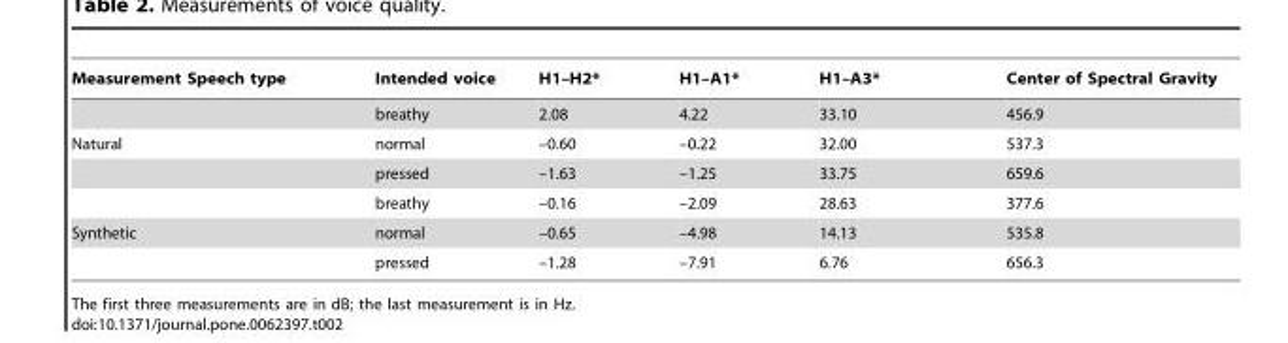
<table><thead><tr><td>Measurement Speech type</td><td>Intended voice</td><td>H1–H2*</td><td>H1–A1*</td><td>H1–A3*</td><td>Center of Spectral Gravity</td></tr></thead><tbody><tr><td></td><td>breathy</td><td>2.08</td><td>4.22</td><td>33.10</td><td>456.9</td></tr><tr><td rowspan="3">Natural</td><td>normal</td><td>–0.60</td><td>–0.22</td><td>32.00</td><td>537.3</td></tr><tr><td>pressed</td><td>–1.63</td><td>–1.25</td><td>33.75</td><td>659.6</td></tr><tr><td>breathy</td><td>–0.16</td><td>–2.09</td><td>28.63</td><td>377.6</td></tr><tr><td rowspan="2">Synthetic</td><td>normal</td><td>–0.65</td><td>–4.98</td><td>14.13</td><td>535.8</td></tr><tr><td>pressed</td><td>–1.28</td><td>–7.91</td><td>6.76</td><td>656.3</td></tr></tbody></table>